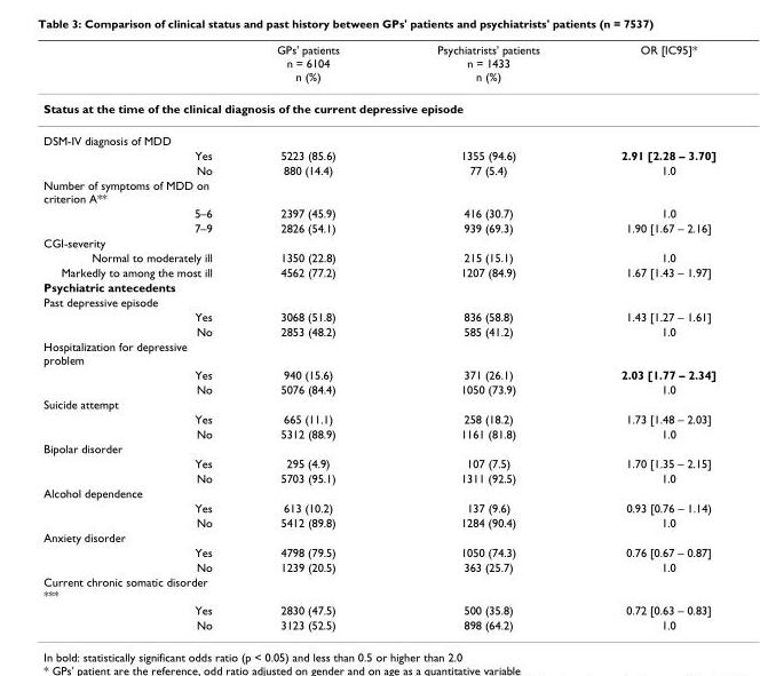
<table><thead><tr><td></td><td>GPs&#x27; patients n = 6104 n (%)</td><td>Psychiatrists&#x27; patients n = 1433 n (%)</td><td>OR [IC95]*</td></tr></thead><tbody><tr><td colspan="4">Status at the time of the clinical diagnosis of the current depressive episode</td></tr><tr><td colspan="4">DSM-IV diagnosis of MDD</td></tr><tr><td>Yes</td><td>5223 (85.6)</td><td>1355 (94.6)</td><td>2.91 [2.28 – 3.70]</td></tr><tr><td>No</td><td>880 (14.4)</td><td>77 (5.4)</td><td>1.0</td></tr><tr><td colspan="4">Number of symptoms of MDD on criterion A**</td></tr><tr><td>5–6</td><td>2397 (45.9)</td><td>416 (30.7)</td><td>1.0</td></tr><tr><td>7–9</td><td>2826 (54.1)</td><td>939 (69.3)</td><td>1.90 [1.67 – 2.16]</td></tr><tr><td colspan="4">CGI-severity</td></tr><tr><td>Normal to moderately ill</td><td>1350 (22.8)</td><td>215 (15.1)</td><td>1.0</td></tr><tr><td>Markedly to among the most ill</td><td>4562 (77.2)</td><td>1207 (84.9)</td><td>1.67 [1.43 – 1.97]</td></tr><tr><td colspan="4">Psychiatric antecedents</td></tr><tr><td colspan="4">Past depressive episode</td></tr><tr><td>Yes</td><td>3068 (51.8)</td><td>836 (58.8)</td><td>1.43 [1.27 – 1.61]</td></tr><tr><td>No</td><td>2853 (48.2)</td><td>585 (41.2)</td><td>1.0</td></tr><tr><td colspan="4">Hospitalization for depressive problem</td></tr><tr><td>Yes</td><td>940 (15.6)</td><td>371 (26.1)</td><td>2.03 [1.77 – 2.34]</td></tr><tr><td>No</td><td>5076 (84.4)</td><td>1050 (73.9)</td><td>1.0</td></tr><tr><td colspan="4">Suicide attempt</td></tr><tr><td>Yes</td><td>665 (11.1)</td><td>258 (18.2)</td><td>1.73 [1.48 – 2.03]</td></tr><tr><td>No</td><td>5312 (88.9)</td><td>1161 (81.8)</td><td>1.0</td></tr><tr><td colspan="4">Bipolar disorder</td></tr><tr><td>Yes</td><td>295 (4.9)</td><td>107 (7.5)</td><td>1.70 [1.35 – 2.15]</td></tr><tr><td>No</td><td>5703 (95.1)</td><td>1311 (92.5)</td><td>1.0</td></tr><tr><td colspan="4">Alcohol dependence</td></tr><tr><td>Yes</td><td>613 (10.2)</td><td>137 (9.6)</td><td>0.93 [0.76 – 1.14)</td></tr><tr><td>No</td><td>5412 (89.8)</td><td>1284 (90.4)</td><td>1.0</td></tr><tr><td colspan="4">Anxiety disorder</td></tr><tr><td>Yes</td><td>4798 (79.5)</td><td>1050 (74.3)</td><td>0.76 [0.67 – 0.87]</td></tr><tr><td>No</td><td>1239 (20.5)</td><td>363 (25.7)</td><td>1.0</td></tr><tr><td colspan="4">Current chronic somatic disorder ***</td></tr><tr><td>Yes</td><td>2830 (47.5)</td><td>500 (35.8)</td><td>0.72 [0.63 – 0.83]</td></tr><tr><td>No</td><td>3123 (52.5)</td><td>898 (64.2)</td><td>1.0</td></tr></tbody></table>